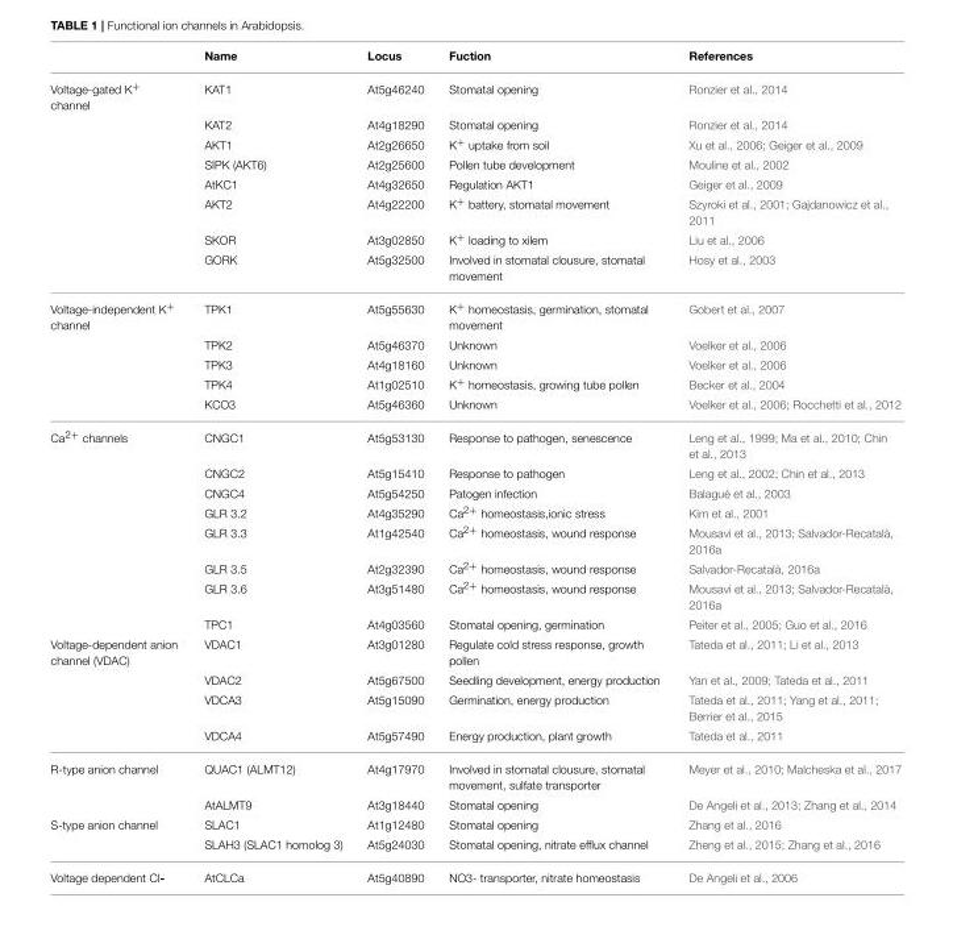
<table><thead><tr><td></td><td>Name</td><td>Locus</td><td>Fuction</td><td>References</td></tr></thead><tbody><tr><td rowspan="8">Voltage-gated K<sup>+</sup> channel</td><td>KAT1</td><td>At5g46240</td><td>Stomatal opening</td><td>Ronzier et al., 2014</td></tr><tr><td>KAT2</td><td>At4g18290</td><td>Stomatal opening</td><td>Ronzier et al., 2014</td></tr><tr><td>AKT1</td><td>At2g26650</td><td>K<sup>+</sup> uptake from soil</td><td>Xu et al., 2006; Geiger et al., 2009</td></tr><tr><td>SIPK (AKT6)</td><td>At2g25600</td><td>Pollen tube development</td><td>Mouline et al., 2002</td></tr><tr><td>AtKC1</td><td>At4g32650</td><td>Regulation AKT1</td><td>Geiger et al., 2009</td></tr><tr><td>AKT2</td><td>At4g22200</td><td>K<sup>+</sup> battery, stomatal movement</td><td>Szyroki et al., 2001; Gajdanowicz et al., 2011</td></tr><tr><td>SKOR</td><td>At3g02850</td><td>K<sup>+</sup> loading to xilem</td><td>Liu et al., 2006</td></tr><tr><td>GORK</td><td>At5g32500</td><td>Involved in stomatal clousure, stomatal movement</td><td>Hosy et al., 2003</td></tr><tr><td rowspan="5">Voltage-independent K<sup>+</sup> channel</td><td>TPK1</td><td>At5g55630</td><td>K<sup>+</sup> homeostasis, germination, stomatal movement</td><td>Gobert et al., 2007</td></tr><tr><td>TPK2</td><td>At5g46370</td><td>Unknown</td><td>Voelker et al., 2006</td></tr><tr><td>TPK3</td><td>At4g18160</td><td>Unknown</td><td>Voelker et al., 2006</td></tr><tr><td>TPK4</td><td>At1g02510</td><td>K<sup>+</sup> homeostasis, growing tube pollen</td><td>Becker et al., 2004</td></tr><tr><td>KCO3</td><td>At5g46360</td><td>Unknown</td><td>Voelker et al., 2006; Rocchetti et al., 2012</td></tr><tr><td rowspan="8">Ca<sup>2+</sup> channels</td><td>CNGC1</td><td>At5g53130</td><td>Response to pathogen, senescence</td><td>Leng et al., 1999; Ma et al., 2010; Chin et al., 2013</td></tr><tr><td>CNGC2</td><td>At5g15410</td><td>Response to pathogen</td><td>Leng et al., 2002; Chin et al., 2013</td></tr><tr><td>CNGC4</td><td>At5g54250</td><td>Patogen infection</td><td>Balagué et al., 2003</td></tr><tr><td>GLR 3.2</td><td>At4g35290</td><td>Ca<sup>2+</sup> homeostasis,ionic stress</td><td>Kim et al., 2001</td></tr><tr><td>GLR 3.3</td><td>At1g42540</td><td>Ca<sup>2+</sup> homeostasis, wound response</td><td>Mousavi et al., 2013; Salvador-Recatalà, 2016a</td></tr><tr><td>GLR 3.5</td><td>At2g32390</td><td>Ca<sup>2+</sup> homeostasis, wound response</td><td>Salvador-Recatalà, 2016a</td></tr><tr><td>GLR 3.6</td><td>At3g51480</td><td>Ca<sup>2+</sup> homeostasis, wound response</td><td>Mousavi et al., 2013; Salvador-Recatalà, 2016a</td></tr><tr><td>TPC1</td><td>At4g03560</td><td>Stomatal opening, germination</td><td>Peiter et al., 2005; Guo et al., 2016</td></tr><tr><td rowspan="4">Voltage-dependent anion channel (VDAC)</td><td>VDAC1</td><td>At3g01280</td><td>Regulate cold stress response, growth pollen</td><td>Tateda et al., 2011; Li et al., 2013</td></tr><tr><td>VDAC2</td><td>At5g67500</td><td>Seedling development, energy production</td><td>Yan et al., 2009; Tateda et al., 2011</td></tr><tr><td>VDCA3</td><td>At5g15090</td><td>Germination, energy production</td><td>Tateda et al., 2011; Yang et al., 2011; Berrier et al., 2015</td></tr><tr><td>VDCA4</td><td>At5g57490</td><td>Energy production, plant growth</td><td>Tateda et al., 2011</td></tr><tr><td rowspan="2">R-type anion channel</td><td>QUAC1 (ALMT12)</td><td>At4g17970</td><td>Involved in stomatal clousure, stomatal movement, sulfate transporter</td><td>Meyer et al., 2010; Malcheska et al., 2017</td></tr><tr><td>AtALMT9</td><td>At3g18440</td><td>Stomatal opening</td><td>De Angeli et al., 2013; Zhang et al., 2014</td></tr><tr><td rowspan="2">S-type anion channel</td><td>SLAC1</td><td>At1g12480</td><td>Stomatal opening</td><td>Zhang et al., 2016</td></tr><tr><td>SLAH3 (SLAC1 homolog 3)</td><td>At5g24030</td><td>Stomatal opening, nitrate efflux channel</td><td>Zheng et al., 2015; Zhang et al., 2016</td></tr><tr><td>Voltage dependent Cl-</td><td>AtCLCa</td><td>At5g40890</td><td>NO3- transporter, nitrate homeostasis</td><td>De Angeli et al., 2006</td></tr></tbody></table>